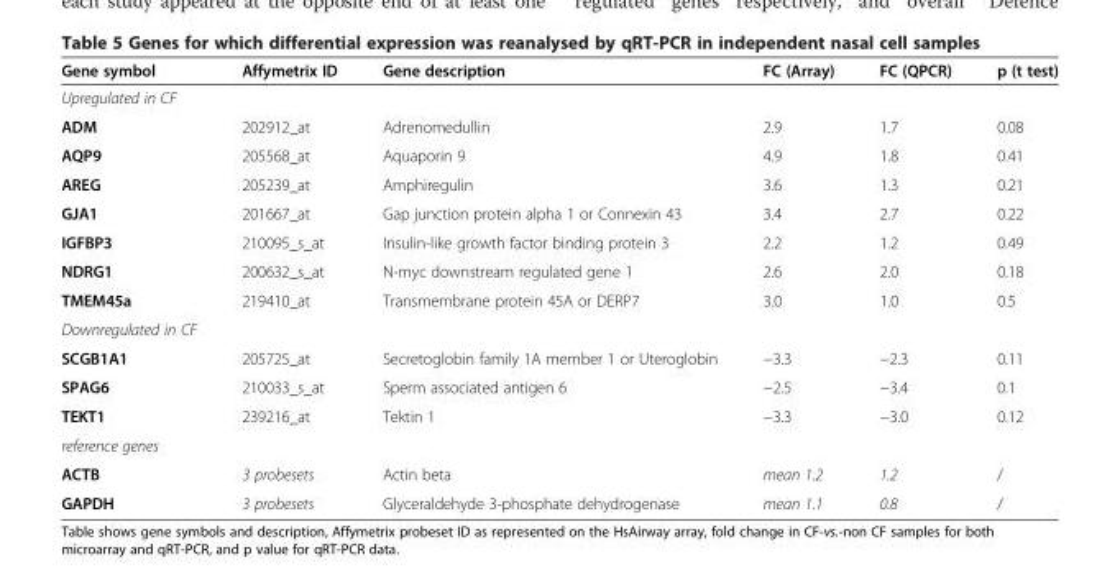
<table><thead><tr><td>Gene symbol</td><td>Affymetrix ID</td><td>Gene description</td><td>FC (Array)</td><td>FC (QPCR)</td><td>p (t test)</td></tr></thead><tbody><tr><td colspan="6">Upregulated in CF</td></tr><tr><td>ADM</td><td>202912_at</td><td>Adrenomedullin</td><td>2.9</td><td>1.7</td><td>0.08</td></tr><tr><td>AQP9</td><td>205568_at</td><td>Aquaporin 9</td><td>4.9</td><td>1.8</td><td>0.41</td></tr><tr><td>AREG</td><td>205239_at</td><td>Amphiregulin</td><td>3.6</td><td>1.3</td><td>0.21</td></tr><tr><td>GJA1</td><td>201667_at</td><td>Gap junction protein alpha 1 or Connexin 43</td><td>3.4</td><td>2.7</td><td>0.22</td></tr><tr><td>IGFBP3</td><td>210095_s_at</td><td>Insulin-like growth factor binding protein 3</td><td>2.2</td><td>1.2</td><td>0.49</td></tr><tr><td>NDRG1</td><td>200632_s_at</td><td>N-myc downstream regulated gene 1</td><td>2.6</td><td>2.0</td><td>0.18</td></tr><tr><td>TMEM45a</td><td>219410_at</td><td>Transmembrane protein 45A or DERP7</td><td>3.0</td><td>1.0</td><td>0.5</td></tr><tr><td colspan="6">Downregulated in CF</td></tr><tr><td>SCGB1A1</td><td>205725_at</td><td>Secretoglobin family 1A member 1 or Uteroglobin</td><td>−3.3</td><td>−2.3</td><td>0.11</td></tr><tr><td>SPAG6</td><td>210033_s_at</td><td>Sperm associated antigen 6</td><td>−2.5</td><td>−3.4</td><td>0.1</td></tr><tr><td>TEKT1</td><td>239216_at</td><td>Tektin 1</td><td>−3.3</td><td>−3.0</td><td>0.12</td></tr><tr><td colspan="6">reference genes</td></tr><tr><td>ACTB</td><td>3 probesets</td><td>Actin beta</td><td>mean 1.2</td><td>1.2</td><td>/</td></tr><tr><td>GAPDH</td><td>3 probesets</td><td>Glyceraldehyde 3-phosphate dehydrogenase</td><td>mean 1.1</td><td>0.8</td><td>/</td></tr></tbody></table>